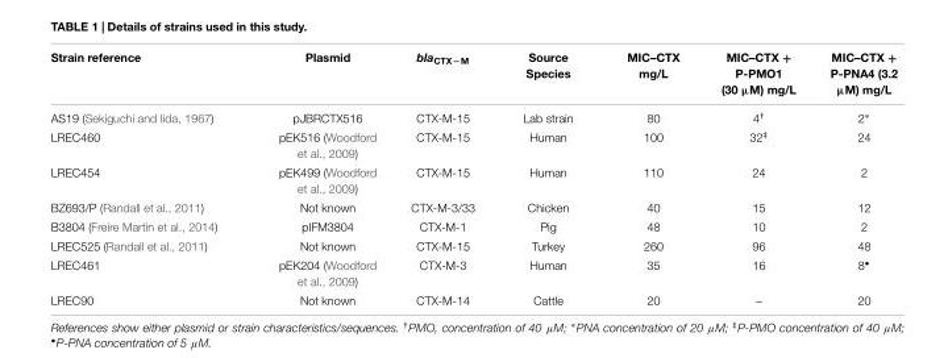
<table><thead><tr><td>Strain reference</td><td>Plasmid</td><td>bla<sub>CTX−M</sub></td><td>Source Species</td><td>MIC–CTX mg/L</td><td>MIC–CTX + P-PMO1 (30 µM) mg/L</td><td>MIC–CTX + P-PNA4 (3.2 µM) mg/L</td></tr></thead><tbody><tr><td>AS19 (Sekiguchi and Iida, 1967)</td><td>pJBRCTX516</td><td>CTX-M-15</td><td>Lab strain</td><td>80</td><td>4<sup>†</sup></td><td>2∗</td></tr><tr><td>LREC460</td><td>pEK516 (Woodford et al., 2009)</td><td>CTX-M-15</td><td>Human</td><td>100</td><td>32<sup>‡</sup></td><td>24</td></tr><tr><td>LREC454</td><td>pEK499 (Woodford et al., 2009)</td><td>CTX-M-15</td><td>Human</td><td>110</td><td>24</td><td>2</td></tr><tr><td>BZ693/P (Randall et al., 2011)</td><td>Not known</td><td>CTX-M-3/33</td><td>Chicken</td><td>40</td><td>15</td><td>12</td></tr><tr><td>B3804 (Freire Martin et al., 2014)</td><td>pIFM3804</td><td>CTX-M-1</td><td>Pig</td><td>48</td><td>10</td><td>2</td></tr><tr><td>LREC525 (Randall et al., 2011)</td><td>Not known</td><td>CTX-M-15</td><td>Turkey</td><td>260</td><td>96</td><td>48</td></tr><tr><td>LREC461</td><td>pEK204 (Woodford et al., 2009)</td><td>CTX-M-3</td><td>Human</td><td>35</td><td>16</td><td>8<sup>•</sup></td></tr><tr><td>LREC90</td><td>Not known</td><td>CTX-M-14</td><td>Cattle</td><td>20</td><td>–</td><td>20</td></tr></tbody></table>